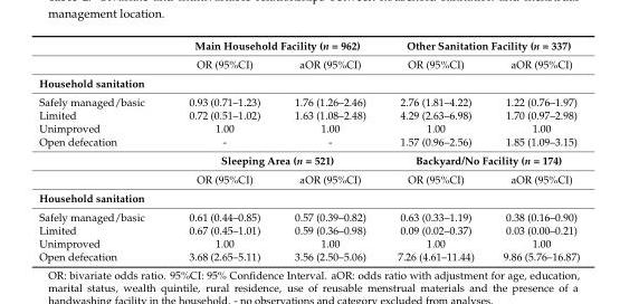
<table><thead><tr><td rowspan="2"></td><td colspan="2">Main Household Facility (n = 962)</td><td colspan="2">Other Sanitation Facility (n = 337)</td></tr><tr><td>OR (95%CI)</td><td>aOR (95%CI)</td><td>OR (95%CI)</td><td>aOR (95%CI)</td></tr></thead><tbody><tr><td colspan="5">Household sanitation</td></tr><tr><td>Safely managed/basic</td><td>0.93 (0.71–1.23)</td><td>1.76 (1.26–2.46)</td><td>2.76 (1.81–4.22)</td><td>1.22 (0.76–1.97)</td></tr><tr><td>Limited</td><td>0.72 (0.51–1.02)</td><td>1.63 (1.08–2.48)</td><td>4.29 (2.63–6.98)</td><td>1.70 (0.97–2.98)</td></tr><tr><td>Unimproved</td><td>1.00</td><td>1.00</td><td>1.00</td><td>1.00</td></tr><tr><td rowspan="3">Open defecation</td><td>-</td><td>-</td><td>1.57 (0.96–2.56)</td><td>1.85 (1.09–3.15)</td></tr><tr><td colspan="2">Sleeping Area (n = 521)</td><td colspan="2">Backyard/No Facility (n = 174)</td></tr><tr><td>OR (95%CI)</td><td>aOR (95%CI)</td><td>OR (95%CI)</td><td>aOR (95%CI)</td></tr><tr><td colspan="5">Household sanitation</td></tr><tr><td>Safely managed/basic</td><td>0.61 (0.44–0.85)</td><td>0.57 (0.39–0.82)</td><td>0.63 (0.33–1.19)</td><td>0.38 (0.16–0.90)</td></tr><tr><td>Limited</td><td>0.67 (0.45–1.01)</td><td>0.59 (0.36–0.98)</td><td>0.09 (0.02–0.37)</td><td>0.03 (0.00–0.21)</td></tr><tr><td>Unimproved</td><td>1.00</td><td>1.00</td><td>1.00</td><td>1.00</td></tr><tr><td>Open defecation</td><td>3.68 (2.65–5.11)</td><td>3.56 (2.50–5.06)</td><td>7.26 (4.61–11.44)</td><td>9.86 (5.76–16.87)</td></tr></tbody></table>